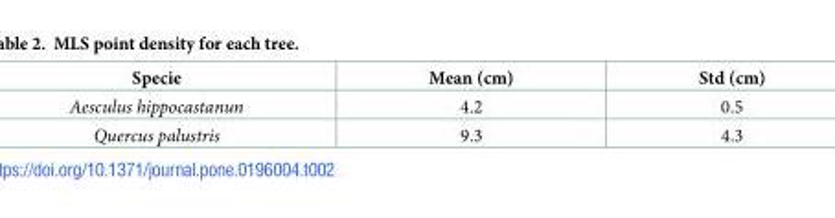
<table><thead><tr><td>Specie</td><td>Mean (cm)</td><td>Std (cm)</td></tr></thead><tbody><tr><td>Aesculus hippocastanun</td><td>4.2</td><td>0.5</td></tr><tr><td>Quercus palustris</td><td>9.3</td><td>4.3</td></tr></tbody></table>